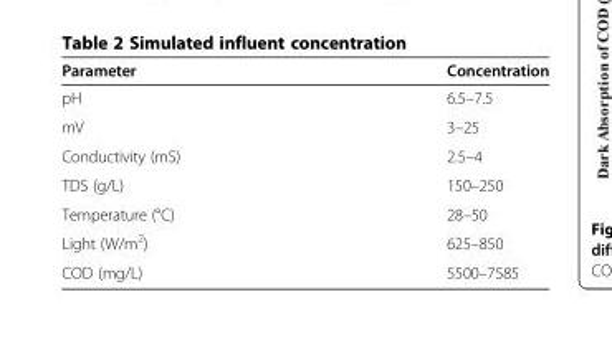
<table><thead><tr><td>Parameter</td><td>Concentration</td></tr></thead><tbody><tr><td>pH</td><td>6.5–7.5</td></tr><tr><td>mV</td><td>3–25</td></tr><tr><td>Conductivity (mS)</td><td>2.5–4</td></tr><tr><td>TDS (g/L)</td><td>150–250</td></tr><tr><td>Temperature (°C)</td><td>28–50</td></tr><tr><td>Light (W/m<sup>2</sup>)</td><td>625–850</td></tr><tr><td>COD (mg/L)</td><td>5500–7585</td></tr></tbody></table>